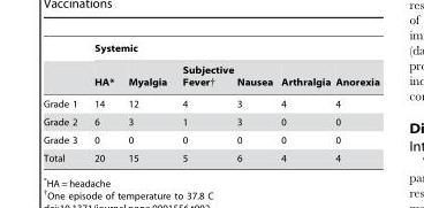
<table><thead><tr><td rowspan="2"></td><td colspan="6">Systemic</td></tr><tr><td>HA*</td><td>Myalgia</td><td>Subjective Fever†</td><td>Nausea</td><td>Arthralgia</td><td>Anorexia</td></tr></thead><tbody><tr><td>Grade 1</td><td>14</td><td>12</td><td>4</td><td>3</td><td>4</td><td>4</td></tr><tr><td>Grade 2</td><td>6</td><td>3</td><td>1</td><td>3</td><td>0</td><td>0</td></tr><tr><td>Grade 3</td><td>0</td><td>0</td><td>0</td><td>0</td><td>0</td><td>0</td></tr><tr><td>Total</td><td>20</td><td>15</td><td>5</td><td>6</td><td>4</td><td>4</td></tr></tbody></table>